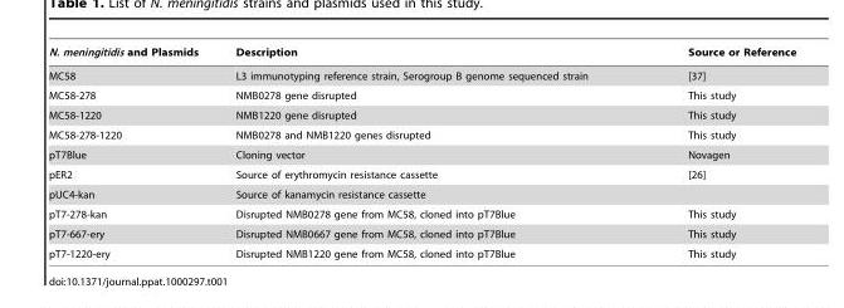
<table><thead><tr><td>N. meningitidis and Plasmids</td><td>Description</td><td>Source or Reference</td></tr></thead><tbody><tr><td>MC58</td><td>L3 immunotyping reference strain, Serogroup B genome sequenced strain</td><td>[37]</td></tr><tr><td>MC58-278</td><td>NMB0278 gene disrupted</td><td>This study</td></tr><tr><td>MC58-1220</td><td>NMB1220 gene disrupted</td><td>This study</td></tr><tr><td>MC58-278-1220</td><td>NMB0278 and NMB1220 genes disrupted</td><td>This study</td></tr><tr><td>pT7Blue</td><td>Cloning vector</td><td>Novagen</td></tr><tr><td>pER2</td><td>Source of erythromycin resistance cassette</td><td>[26]</td></tr><tr><td>pUC4-kan</td><td>Source of kanamycin resistance cassette</td><td></td></tr><tr><td>pT7-278-kan</td><td>Disrupted NMB0278 gene from MC58, cloned into pT7Blue</td><td>This study</td></tr><tr><td>pT7-667-ery</td><td>Disrupted NMB0667 gene from MC58, cloned into pT7Blue</td><td>This study</td></tr><tr><td>pT7-1220-ery</td><td>Disrupted NMB1220 gene from MC58, cloned into pT7Blue</td><td>This study</td></tr></tbody></table>